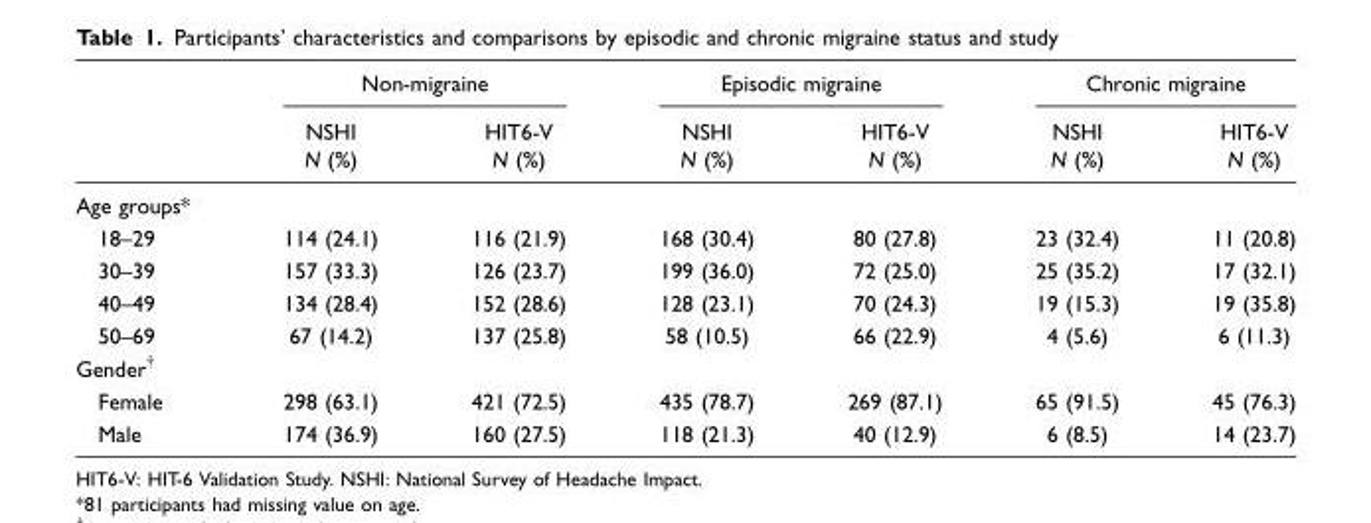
<table><thead><tr><td rowspan="2"></td><td colspan="2">Non-migraine</td><td colspan="2">Episodic migraine</td><td colspan="2">Chronic migraine</td></tr><tr><td>NSHI N (%)</td><td>HIT6-V N (%)</td><td>NSHI N (%)</td><td>HIT6-V N (%)</td><td>NSHI N (%)</td><td>HIT6-V N (%)</td></tr></thead><tbody><tr><td colspan="7">Age groups*</td></tr><tr><td>18–29</td><td>114 (24.1)</td><td>116 (21.9)</td><td>168 (30.4)</td><td>80 (27.8)</td><td>23 (32.4)</td><td>11 (20.8)</td></tr><tr><td>30–39</td><td>157 (33.3)</td><td>126 (23.7)</td><td>199 (36.0)</td><td>72 (25.0)</td><td>25 (35.2)</td><td>17 (32.1)</td></tr><tr><td>40–49</td><td>134 (28.4)</td><td>152 (28.6)</td><td>128 (23.1)</td><td>70 (24.3)</td><td>19 (15.3)</td><td>19 (35.8)</td></tr><tr><td>50–69</td><td>67 (14.2)</td><td>137 (25.8)</td><td>58 (10.5)</td><td>66 (22.9)</td><td>4 (5.6)</td><td>6 (11.3)</td></tr><tr><td colspan="7">Gender<sup>†</sup></td></tr><tr><td>Female</td><td>298 (63.1)</td><td>421 (72.5)</td><td>435 (78.7)</td><td>269 (87.1)</td><td>65 (91.5)</td><td>45 (76.3)</td></tr><tr><td>Male</td><td>174 (36.9)</td><td>160 (27.5)</td><td>118 (21.3)</td><td>40 (12.9)</td><td>6 (8.5)</td><td>14 (23.7)</td></tr></tbody></table>